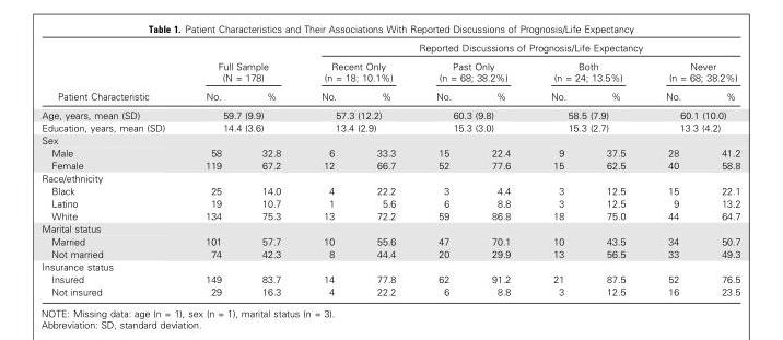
<table><thead><tr><td rowspan="3">Patient Characteristic</td><td rowspan="2" colspan="2">Full Sample (N = 178)</td><td colspan="8">Reported Discussions of Prognosis/Life Expectancy</td></tr><tr><td colspan="2">Recent Only (n = 18; 10.1%)</td><td colspan="2">Past Only (n = 68; 38.2%)</td><td colspan="2">Both (n = 24; 13.5%)</td><td colspan="2">Never (n = 68; 38.2%)</td></tr><tr><td>No.</td><td>%</td><td>No.</td><td>%</td><td>No.</td><td>%</td><td>No.</td><td>%</td><td>No.</td><td>%</td></tr></thead><tbody><tr><td>Age, years, mean (SD)</td><td colspan="2">59.7 (9.9)</td><td colspan="2">57.3 (12.2)</td><td colspan="2">60.3 (9.8)</td><td colspan="2">58.5 (7.9)</td><td colspan="2">60.1 (10.0)</td></tr><tr><td>Education, years, mean (SD)</td><td colspan="2">14.4 (3.6)</td><td colspan="2">13.4 (2.9)</td><td colspan="2">15.3 (3.0)</td><td colspan="2">15.3 (2.7)</td><td colspan="2">13.3 (4.2)</td></tr><tr><td colspan="11">Sex</td></tr><tr><td>Male</td><td>58</td><td>32.8</td><td>6</td><td>33.3</td><td>15</td><td>22.4</td><td>9</td><td>37.5</td><td>28</td><td>41.2</td></tr><tr><td>Female</td><td>119</td><td>67.2</td><td>12</td><td>66.7</td><td>52</td><td>77.6</td><td>15</td><td>62.5</td><td>40</td><td>58.8</td></tr><tr><td colspan="11">Race/ethnicity</td></tr><tr><td>Black</td><td>25</td><td>14.0</td><td>4</td><td>22.2</td><td>3</td><td>4.4</td><td>3</td><td>12.5</td><td>15</td><td>22.1</td></tr><tr><td>Latino</td><td>19</td><td>10.7</td><td>1</td><td>5.6</td><td>6</td><td>8.8</td><td>3</td><td>12.5</td><td>9</td><td>13.2</td></tr><tr><td>White</td><td>134</td><td>75.3</td><td>13</td><td>72.2</td><td>59</td><td>86.8</td><td>18</td><td>75.0</td><td>44</td><td>64.7</td></tr><tr><td colspan="11">Marital status</td></tr><tr><td>Married</td><td>101</td><td>57.7</td><td>10</td><td>55.6</td><td>47</td><td>70.1</td><td>10</td><td>43.5</td><td>34</td><td>50.7</td></tr><tr><td>Not married</td><td>74</td><td>42.3</td><td>8</td><td>44.4</td><td>20</td><td>29.9</td><td>13</td><td>56.5</td><td>33</td><td>49.3</td></tr><tr><td colspan="11">Insurance status</td></tr><tr><td>Insured</td><td>149</td><td>83.7</td><td>14</td><td>77.8</td><td>62</td><td>91.2</td><td>21</td><td>87.5</td><td>52</td><td>76.5</td></tr><tr><td>Not insured</td><td>29</td><td>16.3</td><td>4</td><td>22.2</td><td>6</td><td>8.8</td><td>3</td><td>12.5</td><td>16</td><td>23.5</td></tr></tbody></table>